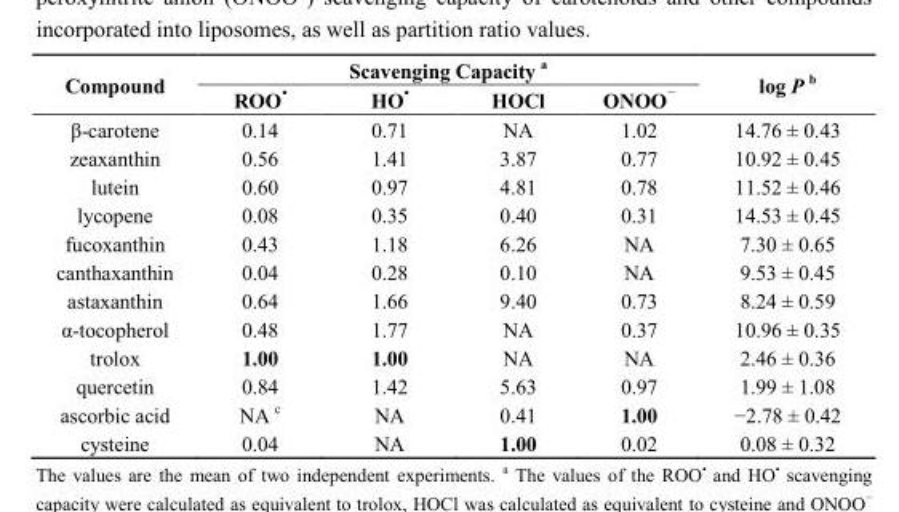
<table><thead><tr><td rowspan="2">Compound</td><td colspan="4">Scavenging Capacity <sup>a</sup></td><td rowspan="2">log P <sup>b</sup></td></tr><tr><td>ROO<sup>•</sup></td><td>HO<sup>•</sup></td><td>HOCl</td><td>ONOO<sup>−</sup></td></tr></thead><tbody><tr><td>β-carotene</td><td>0.14</td><td>0.71</td><td>NA</td><td>1.02</td><td>14.76 ± 0.43</td></tr><tr><td>zeaxanthin</td><td>0.56</td><td>1.41</td><td>3.87</td><td>0.77</td><td>10.92 ± 0.45</td></tr><tr><td>lutein</td><td>0.60</td><td>0.97</td><td>4.81</td><td>0.78</td><td>11.52 ± 0.46</td></tr><tr><td>lycopene</td><td>0.08</td><td>0.35</td><td>0.40</td><td>0.31</td><td>14.53 ± 0.45</td></tr><tr><td>fucoxanthin</td><td>0.43</td><td>1.18</td><td>6.26</td><td>NA</td><td>7.30 ± 0.65</td></tr><tr><td>canthaxanthin</td><td>0.04</td><td>0.28</td><td>0.10</td><td>NA</td><td>9.53 ± 0.45</td></tr><tr><td>astaxanthin</td><td>0.64</td><td>1.66</td><td>9.40</td><td>0.73</td><td>8.24 ± 0.59</td></tr><tr><td>α-tocopherol</td><td>0.48</td><td>1.77</td><td>NA</td><td>0.37</td><td>10.96 ± 0.35</td></tr><tr><td>trolox</td><td>1.00</td><td>1.00</td><td>NA</td><td>NA</td><td>2.46 ± 0.36</td></tr><tr><td>quercetin</td><td>0.84</td><td>1.42</td><td>5.63</td><td>0.97</td><td>1.99 ± 1.08</td></tr><tr><td>ascorbic acid</td><td>NA <sup>c</sup></td><td>NA</td><td>0.41</td><td>1.00</td><td>−2.78 ± 0.42</td></tr><tr><td>cysteine</td><td>0.04</td><td>NA</td><td>1.00</td><td>0.02</td><td>0.08 ± 0.32</td></tr></tbody></table>